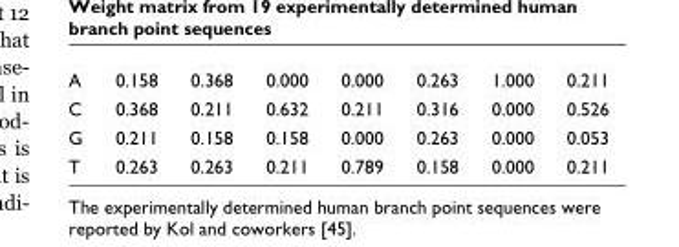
<table><tbody><tr><td>A</td><td>0.158</td><td>0.368</td><td>0.000</td><td>0.000</td><td>0.263</td><td>1.000</td><td>0.211</td></tr><tr><td>C</td><td>0.368</td><td>0.211</td><td>0.632</td><td>0.211</td><td>0.316</td><td>0.000</td><td>0.526</td></tr><tr><td>G</td><td>0.211</td><td>0.158</td><td>0.158</td><td>0.000</td><td>0.263</td><td>0.000</td><td>0.053</td></tr><tr><td>T</td><td>0.263</td><td>0.263</td><td>0.211</td><td>0.789</td><td>0.158</td><td>0.000</td><td>0.211</td></tr></tbody></table>